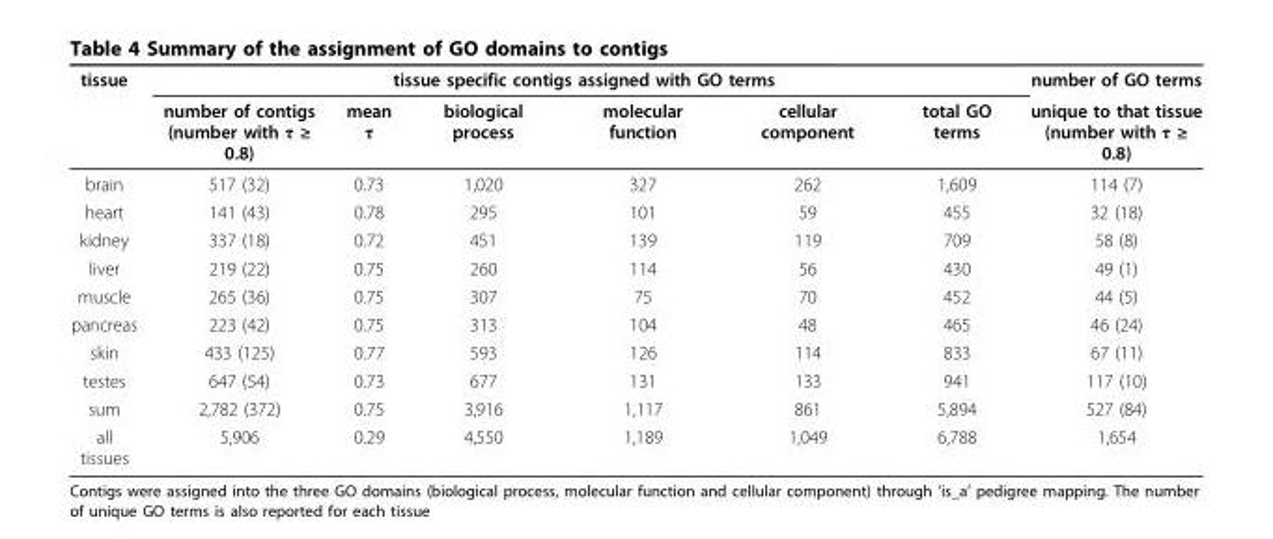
<table><thead><tr><td rowspan="2">tissue</td><td colspan="6">tissue specific contigs assigned with GO terms</td><td rowspan="2">number of GO terms unique to that tissue (number with τ ≥ 0.8)</td></tr><tr><td>number of contigs (number with τ ≥ 0.8)</td><td>mean τ</td><td>biological process</td><td>molecular function</td><td>cellular component</td><td>total GO terms</td></tr></thead><tbody><tr><td>brain</td><td>517 (32)</td><td>0.73</td><td>1,020</td><td>327</td><td>262</td><td>1,609</td><td>114 (7)</td></tr><tr><td>heart</td><td>141 (43)</td><td>0.78</td><td>295</td><td>101</td><td>59</td><td>455</td><td>32 (18)</td></tr><tr><td>kidney</td><td>337 (18)</td><td>0.72</td><td>451</td><td>139</td><td>119</td><td>709</td><td>58 (8)</td></tr><tr><td>liver</td><td>219 (22)</td><td>0.75</td><td>260</td><td>114</td><td>56</td><td>430</td><td>49 (1)</td></tr><tr><td>muscle</td><td>265 (36)</td><td>0.75</td><td>307</td><td>75</td><td>70</td><td>452</td><td>44 (5)</td></tr><tr><td>pancreas</td><td>223 (42)</td><td>0.75</td><td>313</td><td>104</td><td>48</td><td>465</td><td>46 (24)</td></tr><tr><td>skin</td><td>433 (125)</td><td>0.77</td><td>593</td><td>126</td><td>114</td><td>833</td><td>67 (11)</td></tr><tr><td>testes</td><td>647 (54)</td><td>0.73</td><td>677</td><td>131</td><td>133</td><td>941</td><td>117 (10)</td></tr><tr><td>sum</td><td>2,782 (372)</td><td>0.75</td><td>3,916</td><td>1,117</td><td>861</td><td>5,894</td><td>527 (84)</td></tr><tr><td>all tissues</td><td>5,906</td><td>0.29</td><td>4,550</td><td>1,189</td><td>1,049</td><td>6,788</td><td>1,654</td></tr></tbody></table>